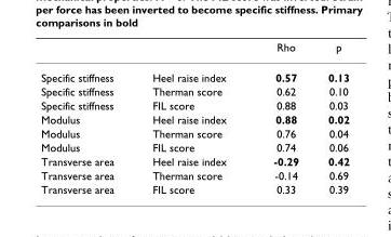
<table><thead><tr><td></td><td></td><td>Rho</td><td>p</td></tr></thead><tbody><tr><td>Specific stiffness</td><td>Heel raise index</td><td>0.57</td><td>0.13</td></tr><tr><td>Specific stiffness</td><td>Therman score</td><td>0.62</td><td>0.10</td></tr><tr><td>Specific stiffness</td><td>FIL score</td><td>0.88</td><td>0.03</td></tr><tr><td>Modulus</td><td>Heel raise index</td><td>0.88</td><td>0.02</td></tr><tr><td>Modulus</td><td>Therman score</td><td>0.76</td><td>0.04</td></tr><tr><td>Modulus</td><td>FIL score</td><td>0.74</td><td>0.06</td></tr><tr><td>Transverse area</td><td>Heel raise index</td><td>-0.29</td><td>0.42</td></tr><tr><td>Transverse area</td><td>Therman score</td><td>-0.14</td><td>0.69</td></tr><tr><td>Transverse area</td><td>FIL score</td><td>0.33</td><td>0.39</td></tr></tbody></table>